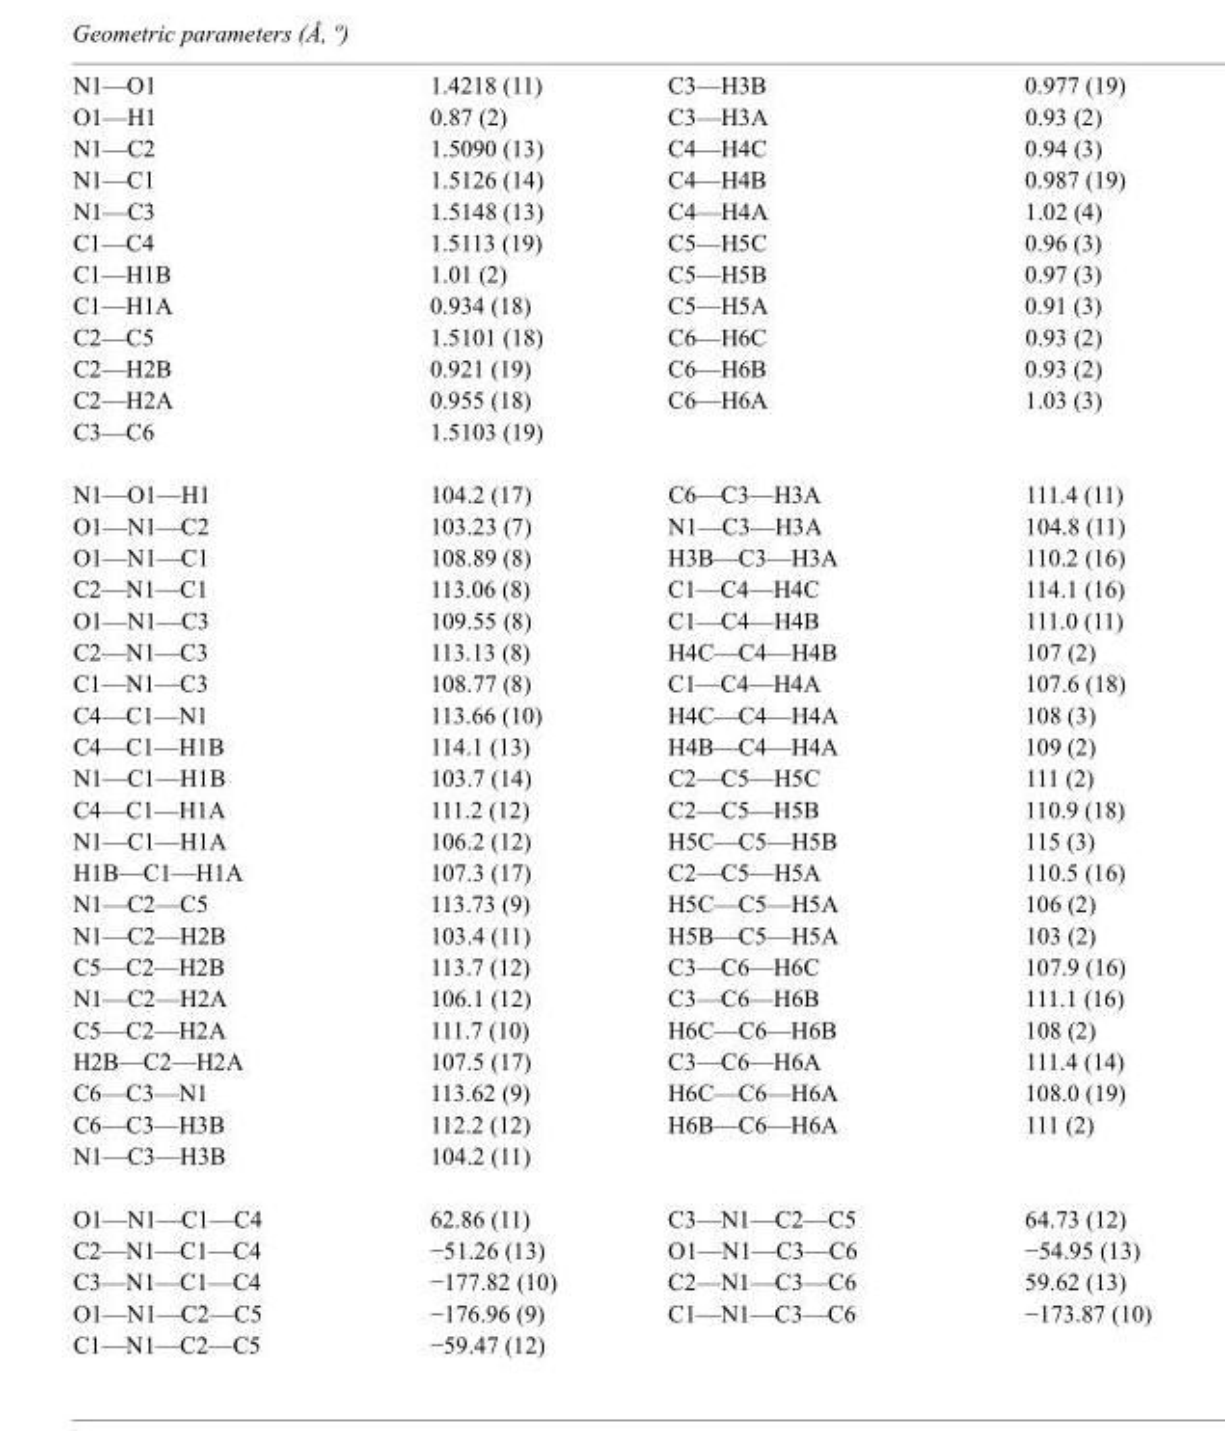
<table><tbody><tr><td>N1—O1</td><td>1.4218 (11)</td><td>C3—H3B</td><td>0.977 (19)</td></tr><tr><td>O1—H1</td><td>0.87 (2)</td><td>C3—H3A</td><td>0.93 (2)</td></tr><tr><td>N1—C2</td><td>1.5090 (13)</td><td>C4—H4C</td><td>0.94 (3)</td></tr><tr><td>N1—C1</td><td>1.5126 (14)</td><td>C4—H4B</td><td>0.987 (19)</td></tr><tr><td>N1—C3</td><td>1.5148 (13)</td><td>C4—H4A</td><td>1.02 (4)</td></tr><tr><td>C1—C4</td><td>1.5113 (19)</td><td>C5—H5C</td><td>0.96 (3)</td></tr><tr><td>C1—H1B</td><td>1.01 (2)</td><td>C5—H5B</td><td>0.97 (3)</td></tr><tr><td>C1—H1A</td><td>0.934 (18)</td><td>C5—H5A</td><td>0.91 (3)</td></tr><tr><td>C2—C5</td><td>1.5101 (18)</td><td>C6—H6C</td><td>0.93 (2)</td></tr><tr><td>C2—H2B</td><td>0.921 (19)</td><td>C6—H6B</td><td>0.93 (2)</td></tr><tr><td>C2—H2A</td><td>0.955 (18)</td><td>C6—H6A</td><td>1.03 (3)</td></tr><tr><td>C3—C6</td><td>1.5103 (19)</td><td></td><td></td></tr><tr><td>N1—O1—H1</td><td>104.2 (17)</td><td>C6—C3—H3A</td><td>111.4 (11)</td></tr><tr><td>O1—N1—C2</td><td>103.23 (7)</td><td>N1—C3—H3A</td><td>104.8 (11)</td></tr><tr><td>O1—N1—C1</td><td>108.89 (8)</td><td>H3B—C3—H3A</td><td>110.2 (16)</td></tr><tr><td>C2—N1—C1</td><td>113.06 (8)</td><td>C1—C4—H4C</td><td>114.1 (16)</td></tr><tr><td>O1—N1—C3</td><td>109.55 (8)</td><td>C1—C4—H4B</td><td>111.0 (11)</td></tr><tr><td>C2—N1—C3</td><td>113.13 (8)</td><td>H4C—C4—H4B</td><td>107 (2)</td></tr><tr><td>C1—N1—C3</td><td>108.77 (8)</td><td>C1—C4—H4A</td><td>107.6 (18)</td></tr><tr><td>C4—C1—N1</td><td>113.66 (10)</td><td>H4C—C4—H4A</td><td>108 (3)</td></tr><tr><td>C4—C1—H1B</td><td>114.1 (13)</td><td>H4B—C4—H4A</td><td>109 (2)</td></tr><tr><td>N1—C1—H1B</td><td>103.7 (14)</td><td>C2—C5—H5C</td><td>111 (2)</td></tr><tr><td>C4—C1—H1A</td><td>111.2 (12)</td><td>C2—C5—H5B</td><td>110.9 (18)</td></tr><tr><td>N1—C1—H1A</td><td>106.2 (12)</td><td>H5C—C5—H5B</td><td>115 (3)</td></tr><tr><td>H1B—C1—H1A</td><td>107.3 (17)</td><td>C2—C5—H5A</td><td>110.5 (16)</td></tr><tr><td>N1—C2—C5</td><td>113.73 (9)</td><td>H5C—C5—H5A</td><td>106 (2)</td></tr><tr><td>N1—C2—H2B</td><td>103.4 (11)</td><td>H5B—C5—H5A</td><td>103 (2)</td></tr><tr><td>C5—C2—H2B</td><td>113.7 (12)</td><td>C3—C6—H6C</td><td>107.9 (16)</td></tr><tr><td>N1—C2—H2A</td><td>106.1 (12)</td><td>C3—C6—H6B</td><td>111.1 (16)</td></tr><tr><td>C5—C2—H2A</td><td>111.7 (10)</td><td>H6C—C6—H6B</td><td>108 (2)</td></tr><tr><td>H2B—C2—H2A</td><td>107.5 (17)</td><td>C3—C6—H6A</td><td>111.4 (14)</td></tr><tr><td>C6—C3—N1</td><td>113.62 (9)</td><td>H6C—C6—H6A</td><td>108.0 (19)</td></tr><tr><td>C6—C3—H3B</td><td>112.2 (12)</td><td>H6B—C6—H6A</td><td>111 (2)</td></tr><tr><td>N1—C3—H3B</td><td>104.2 (11)</td><td></td><td></td></tr><tr><td>O1—N1—C1—C4</td><td>62.86 (11)</td><td>C3—N1—C2—C5</td><td>64.73 (12)</td></tr><tr><td>C2—N1—C1—C4</td><td>−51.26 (13)</td><td>O1—N1—C3—C6</td><td>−54.95 (13)</td></tr><tr><td>C3—N1—C1—C4</td><td>−177.82 (10)</td><td>C2—N1—C3—C6</td><td>59.62 (13)</td></tr><tr><td>O1—N1—C2—C5</td><td>−176.96 (9)</td><td>C1—N1—C3—C6</td><td>−173.87 (10)</td></tr><tr><td>C1—N1—C2—C5</td><td>−59.47 (12)</td><td></td><td></td></tr></tbody></table>